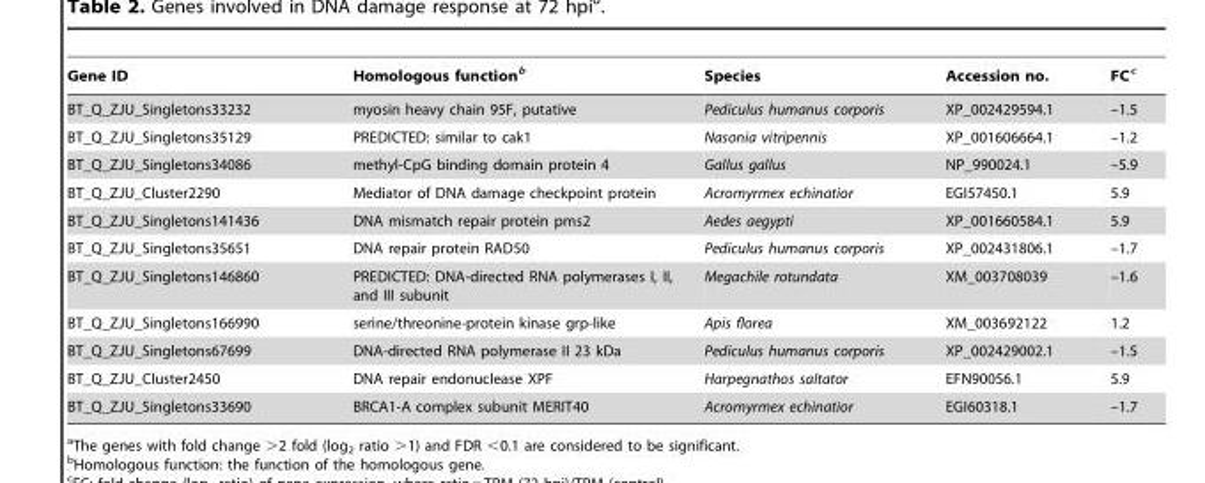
<table><thead><tr><td>Gene ID</td><td>Homologous function<sup>b</sup></td><td>Species</td><td>Accession no.</td><td>FC<sup>c</sup></td></tr></thead><tbody><tr><td>BT_Q_ZJU_Singletons33232</td><td>myosin heavy chain 95F, putative</td><td>Pediculus humanus corporis</td><td>XP_002429594.1</td><td>–1.5</td></tr><tr><td>BT_Q_ZJU_Singletons35129</td><td>PREDICTED: similar to cak1</td><td>Nasonia vitripennis</td><td>XP_001606664.1</td><td>–1.2</td></tr><tr><td>BT_Q_ZJU_Singletons34086</td><td>methyl-CpG binding domain protein 4</td><td>Gallus gallus</td><td>NP_990024.1</td><td>–5.9</td></tr><tr><td>BT_Q_ZJU_Cluster2290</td><td>Mediator of DNA damage checkpoint protein</td><td>Acromyrmex echinatior</td><td>EGI57450.1</td><td>5.9</td></tr><tr><td>BT_Q_ZJU_Singletons141436</td><td>DNA mismatch repair protein pms2</td><td>Aedes aegypti</td><td>XP_001660584.1</td><td>5.9</td></tr><tr><td>BT_Q_ZJU_Singletons35651</td><td>DNA repair protein RAD50</td><td>Pediculus humanus corporis</td><td>XP_002431806.1</td><td>–1.7</td></tr><tr><td>BT_Q_ZJU_Singletons146860</td><td>PREDICTED: DNA-directed RNA polymerases I, II, and III subunit</td><td>Megachile rotundata</td><td>XM_003708039</td><td>–1.6</td></tr><tr><td>BT_Q_ZJU_Singletons166990</td><td>serine/threonine-protein kinase grp-like</td><td>Apis florea</td><td>XM_003692122</td><td>1.2</td></tr><tr><td>BT_Q_ZJU_Singletons67699</td><td>DNA-directed RNA polymerase II 23 kDa</td><td>Pediculus humanus corporis</td><td>XP_002429002.1</td><td>–1.5</td></tr><tr><td>BT_Q_ZJU_Cluster2450</td><td>DNA repair endonuclease XPF</td><td>Harpegnathos saltator</td><td>EFN90056.1</td><td>5.9</td></tr><tr><td>BT_Q_ZJU_Singletons33690</td><td>BRCA1-A complex subunit MERIT40</td><td>Acromyrmex echinatior</td><td>EGI60318.1</td><td>–1.7</td></tr></tbody></table>